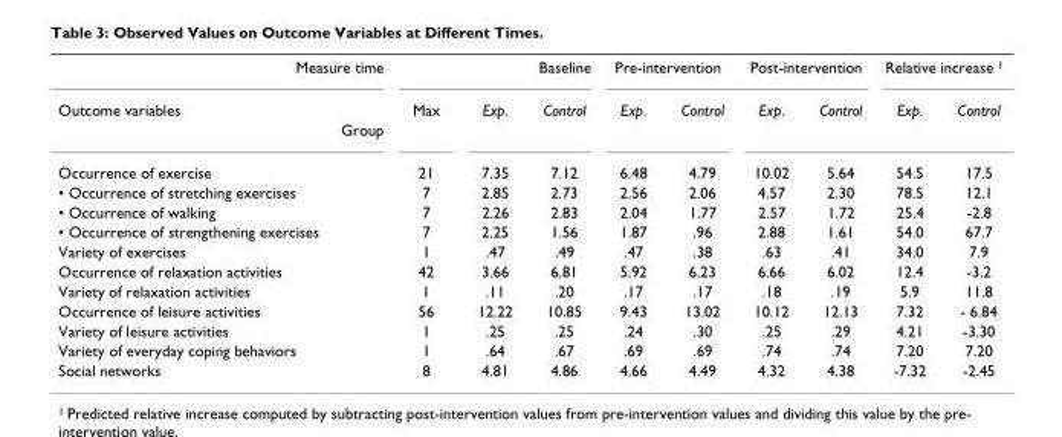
<table><tbody><tr><td>Measure time</td><td colspan="3">Baseline</td><td colspan="2">Pre-intervention</td><td colspan="2">Post-intervention</td><td colspan="2">Relative increase <sup>1</sup></td></tr><tr><td>Outcome variables</td><td>Max</td><td>Exp.</td><td>Control</td><td>Exp.</td><td>Control</td><td>Exp.</td><td>Control</td><td>Exp.</td><td>Control</td></tr><tr><td colspan="10">Group</td></tr><tr><td>Occurrence of exercise</td><td>21</td><td>7.35</td><td>7.12</td><td>6.48</td><td>4.79</td><td>10.02</td><td>5.64</td><td>54.5</td><td>17.5</td></tr><tr><td>• Occurrence of stretching exercises</td><td>7</td><td>2.85</td><td>2.73</td><td>2.56</td><td>2.06</td><td>4.57</td><td>2.30</td><td>78.5</td><td>12.1</td></tr><tr><td>• Occurrence of walking</td><td>7</td><td>2.26</td><td>2.83</td><td>2.04</td><td>1.77</td><td>2.57</td><td>1.72</td><td>25.4</td><td>-2.8</td></tr><tr><td>• Occurrence of strengthening exercises</td><td>7</td><td>2.25</td><td>1.56</td><td>1.87</td><td>.96</td><td>2.88</td><td>1.61</td><td>54.0</td><td>67.7</td></tr><tr><td>Variety of exercises</td><td>1</td><td>.47</td><td>.49</td><td>.47</td><td>.38</td><td>.63</td><td>.41</td><td>34.0</td><td>7.9</td></tr><tr><td>Occurrence of relaxation activities</td><td>42</td><td>3.66</td><td>6.81</td><td>5.92</td><td>6.23</td><td>6.66</td><td>6.02</td><td>12.4</td><td>-3.2</td></tr><tr><td>Variety of relaxation activities</td><td>1</td><td>.11</td><td>.20</td><td>.17</td><td>.17</td><td>.18</td><td>.19</td><td>5.9</td><td>11.8</td></tr><tr><td>Occurrence of leisure activities</td><td>56</td><td>12.22</td><td>10.85</td><td>9.43</td><td>13.02</td><td>10.12</td><td>12.13</td><td>7.32</td><td>- 6.84</td></tr><tr><td>Variety of leisure activities</td><td>1</td><td>.25</td><td>.25</td><td>.24</td><td>.30</td><td>.25</td><td>.29</td><td>4.21</td><td>-3.30</td></tr><tr><td>Variety of everyday coping behaviors</td><td>1</td><td>.64</td><td>.67</td><td>.69</td><td>.69</td><td>.74</td><td>.74</td><td>7.20</td><td>7.20</td></tr><tr><td>Social networks</td><td>8</td><td>4.81</td><td>4.86</td><td>4.66</td><td>4.49</td><td>4.32</td><td>4.38</td><td>-7.32</td><td>-2.45</td></tr></tbody></table>